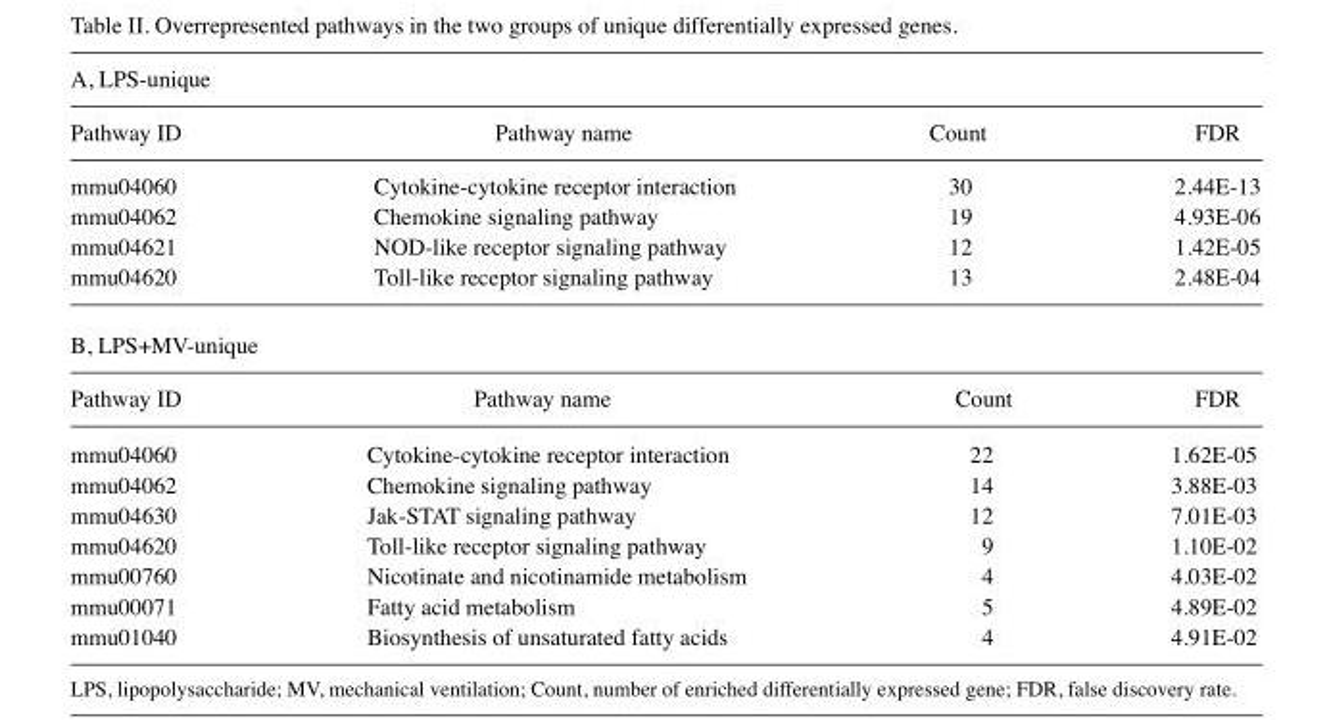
<table><thead><tr><td colspan="4">A, LPS‑unique</td></tr><tr><td>Pathway ID</td><td>Pathway name</td><td>Count</td><td>FDR</td></tr></thead><tbody><tr><td>mmu04060</td><td>Cytokine‑cytokine receptor interaction</td><td>30</td><td>2.44E‑13</td></tr><tr><td>mmu04062</td><td>Chemokine signaling pathway</td><td>19</td><td>4.93E‑06</td></tr><tr><td>mmu04621</td><td>NOD‑like receptor signaling pathway</td><td>12</td><td>1.42E‑05</td></tr><tr><td>mmu04620</td><td>Toll‑like receptor signaling pathway</td><td>13</td><td>2.48E‑04</td></tr><tr><td colspan="4">B, LPS+MV‑unique</td></tr><tr><td>Pathway ID</td><td>Pathway name</td><td>Count</td><td>FDR</td></tr><tr><td>mmu04060</td><td>Cytokine‑cytokine receptor interaction</td><td>22</td><td>1.62E‑05</td></tr><tr><td>mmu04062</td><td>Chemokine signaling pathway</td><td>14</td><td>3.88E‑03</td></tr><tr><td>mmu04630</td><td>Jak‑STAT signaling pathway</td><td>12</td><td>7.01E‑03</td></tr><tr><td>mmu04620</td><td>Toll‑like receptor signaling pathway</td><td>9</td><td>1.10E‑02</td></tr><tr><td>mmu00760</td><td>Nicotinate and nicotinamide metabolism</td><td>4</td><td>4.03E‑02</td></tr><tr><td>mmu00071</td><td>Fatty acid metabolism</td><td>5</td><td>4.89E‑02</td></tr><tr><td>mmu01040</td><td>Biosynthesis of unsaturated fatty acids</td><td>4</td><td>4.91E‑02</td></tr></tbody></table>